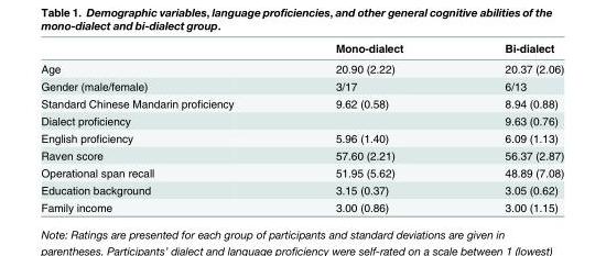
<table><thead><tr><td></td><td>Mono-dialect</td><td>Bi-dialect</td></tr></thead><tbody><tr><td>Age</td><td>20.90 (2.22)</td><td>20.37 (2.06)</td></tr><tr><td>Gender (male/female)</td><td>3/17</td><td>6/13</td></tr><tr><td>Standard Chinese Mandarin proficiency</td><td>9.62 (0.58)</td><td>8.94 (0.88)</td></tr><tr><td>Dialect proficiency</td><td></td><td>9.63 (0.76)</td></tr><tr><td>English proficiency</td><td>5.96 (1.40)</td><td>6.09 (1.13)</td></tr><tr><td>Raven score</td><td>57.60 (2.21)</td><td>56.37 (2.87)</td></tr><tr><td>Operational span recall</td><td>51.95 (5.62)</td><td>48.89 (7.08)</td></tr><tr><td>Education background</td><td>3.15 (0.37)</td><td>3.05 (0.62)</td></tr><tr><td>Family income</td><td>3.00 (0.86)</td><td>3.00 (1.15)</td></tr></tbody></table>